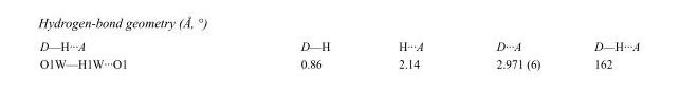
<table><tbody><tr><td>D—H···A</td><td>D—H</td><td>H···A</td><td>D···A</td><td>D—H···A</td></tr><tr><td>O1W—H1W···O1</td><td>0.86</td><td>2.14</td><td>2.971 (6)</td><td>162</td></tr></tbody></table>